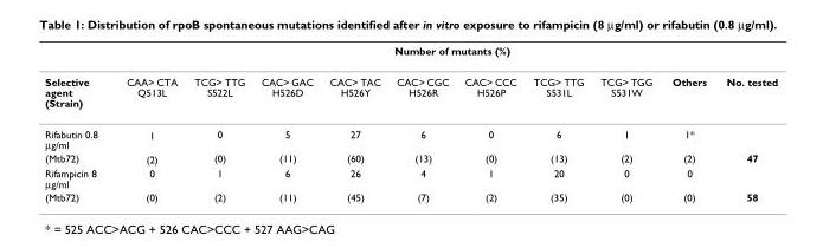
<table><thead><tr><td rowspan="2">Selective agent (Strain)</td><td colspan="10">Number of mutants (%)</td></tr><tr><td>CAA&gt; CTA Q513L</td><td>TCG&gt; TTG S522L</td><td>CAC&gt; GAC H526D</td><td>CAC&gt; TAC H526Y</td><td>CAC&gt; CGC H526R</td><td>CAC&gt; CCC H526P</td><td>TCG&gt; TTG S531L</td><td>TCG&gt; TGG S531W</td><td>Others</td><td>No. tested</td></tr></thead><tbody><tr><td>Rifabutin 0.8 µg/ml</td><td>1</td><td>0</td><td>5</td><td>27</td><td>6</td><td>0</td><td>6</td><td>1</td><td>1*</td><td></td></tr><tr><td>(Mtb72)</td><td>(2)</td><td>(0)</td><td>(11)</td><td>(60)</td><td>(13)</td><td>(0)</td><td>(13)</td><td>(2)</td><td>(2)</td><td>47</td></tr><tr><td>Rifampicin 8 µg/ml</td><td>0</td><td>1</td><td>6</td><td>26</td><td>4</td><td>1</td><td>20</td><td>0</td><td>0</td><td></td></tr><tr><td>(Mtb72)</td><td>(0)</td><td>(2)</td><td>(11)</td><td>(45)</td><td>(7)</td><td>(2)</td><td>(35)</td><td>(0)</td><td>(0)</td><td>58</td></tr></tbody></table>